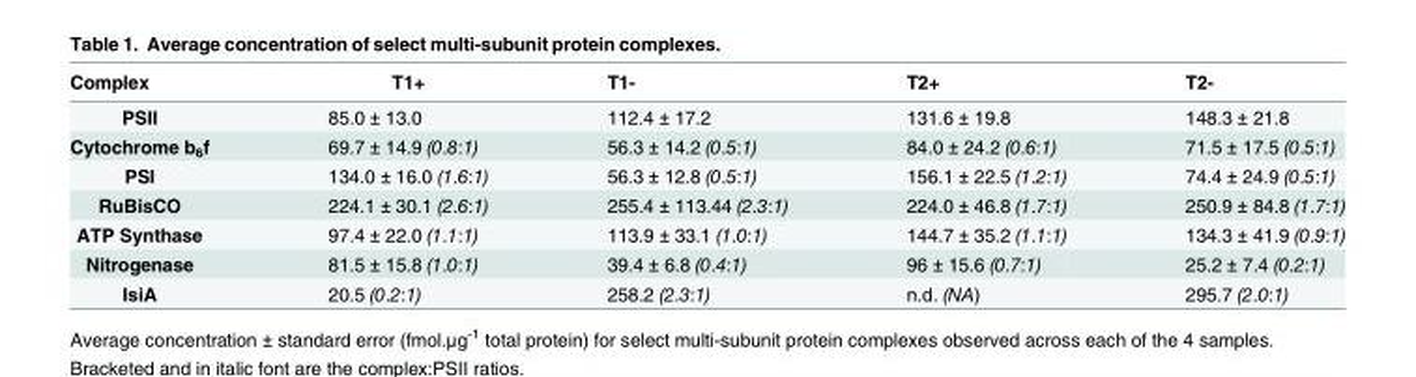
<table><thead><tr><td>Complex</td><td>T1+</td><td>T1-</td><td>T2+</td><td>T2-</td></tr></thead><tbody><tr><td>PSII</td><td>85.0 ± 13.0</td><td>112.4 ± 17.2</td><td>131.6 ± 19.8</td><td>148.3 ± 21.8</td></tr><tr><td>Cytochrome b<sub>6</sub>f</td><td>69.7 ± 14.9 (0.8:1)</td><td>56.3 ± 14.2 (0.5:1)</td><td>84.0 ± 24.2 (0.6:1)</td><td>71.5 ± 17.5 (0.5:1)</td></tr><tr><td>PSI</td><td>134.0 ± 16.0 (1.6:1)</td><td>56.3 ± 12.8 (0.5:1)</td><td>156.1 ± 22.5 (1.2:1)</td><td>74.4 ± 24.9 (0.5:1)</td></tr><tr><td>RuBisCO</td><td>224.1 ± 30.1 (2.6:1)</td><td>255.4 ± 113.44 (2.3:1)</td><td>224.0 ± 46.8 (1.7:1)</td><td>250.9 ± 84.8 (1.7:1)</td></tr><tr><td>ATP Synthase</td><td>97.4 ± 22.0 (1.1:1)</td><td>113.9 ± 33.1 (1.0:1)</td><td>144.7 ± 35.2 (1.1:1)</td><td>134.3 ± 41.9 (0.9:1)</td></tr><tr><td>Nitrogenase</td><td>81.5 ± 15.8 (1.0:1)</td><td>39.4 ± 6.8 (0.4:1)</td><td>96 ± 15.6 (0.7:1)</td><td>25.2 ± 7.4 (0.2:1)</td></tr><tr><td>IsiA</td><td>20.5 (0.2:1)</td><td>258.2 (2.3:1)</td><td>n.d. (NA)</td><td>295.7 (2.0:1)</td></tr></tbody></table>